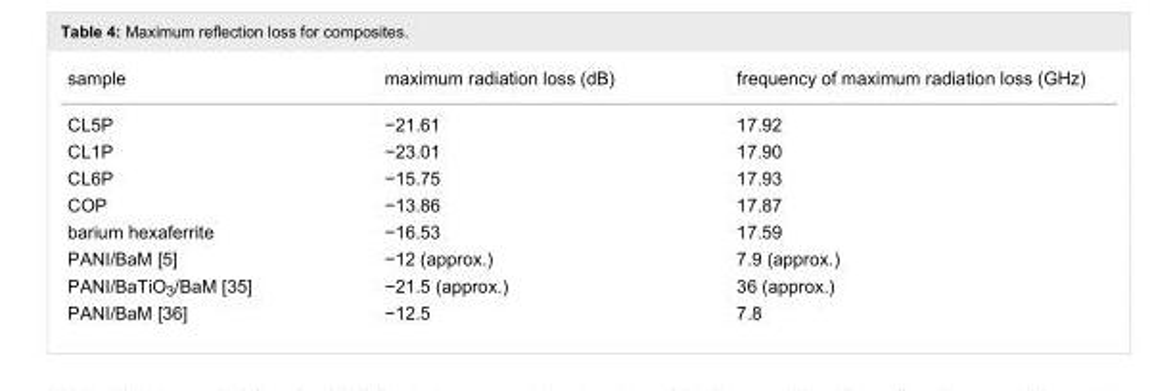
<table><tbody><tr><td>sample</td><td>maximum radiation loss (dB)</td><td>frequency of maximum radiation loss (GHz)</td></tr><tr><td>CL5P</td><td>−21.61</td><td>17.92</td></tr><tr><td>CL1P</td><td>−23.01</td><td>17.90</td></tr><tr><td>CL6P</td><td>−15.75</td><td>17.93</td></tr><tr><td>COP</td><td>−13.86</td><td>17.87</td></tr><tr><td>barium hexaferrite</td><td>−16.53</td><td>17.59</td></tr><tr><td>PANI/BaM [5]</td><td>−12 (approx.)</td><td>7.9 (approx.)</td></tr><tr><td>PANI/BaTiO<sub>3</sub>/BaM [35]</td><td>−21.5 (approx.)</td><td>36 (approx.)</td></tr><tr><td>PANI/BaM [36]</td><td>−12.5</td><td>7.8</td></tr></tbody></table>